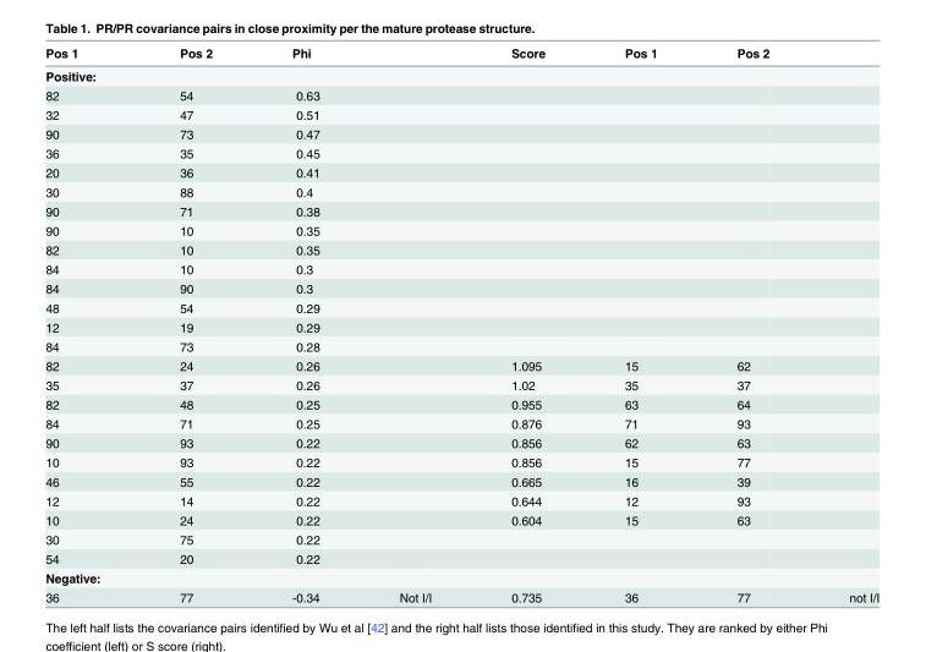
<table><thead><tr><td>Pos 1</td><td>Pos 2</td><td>Phi</td><td></td><td>Score</td><td>Pos 1</td><td>Pos 2</td><td></td></tr></thead><tbody><tr><td colspan="8">Positive:</td></tr><tr><td>82</td><td>54</td><td>0.63</td><td></td><td></td><td></td><td></td><td></td></tr><tr><td>32</td><td>47</td><td>0.51</td><td></td><td></td><td></td><td></td><td></td></tr><tr><td>90</td><td>73</td><td>0.47</td><td></td><td></td><td></td><td></td><td></td></tr><tr><td>36</td><td>35</td><td>0.45</td><td></td><td></td><td></td><td></td><td></td></tr><tr><td>20</td><td>36</td><td>0.41</td><td></td><td></td><td></td><td></td><td></td></tr><tr><td>30</td><td>88</td><td>0.4</td><td></td><td></td><td></td><td></td><td></td></tr><tr><td>90</td><td>71</td><td>0.38</td><td></td><td></td><td></td><td></td><td></td></tr><tr><td>90</td><td>10</td><td>0.35</td><td></td><td></td><td></td><td></td><td></td></tr><tr><td>82</td><td>10</td><td>0.35</td><td></td><td></td><td></td><td></td><td></td></tr><tr><td>84</td><td>10</td><td>0.3</td><td></td><td></td><td></td><td></td><td></td></tr><tr><td>84</td><td>90</td><td>0.3</td><td></td><td></td><td></td><td></td><td></td></tr><tr><td>48</td><td>54</td><td>0.29</td><td></td><td></td><td></td><td></td><td></td></tr><tr><td>12</td><td>19</td><td>0.29</td><td></td><td></td><td></td><td></td><td></td></tr><tr><td>84</td><td>73</td><td>0.28</td><td></td><td></td><td></td><td></td><td></td></tr><tr><td>82</td><td>24</td><td>0.26</td><td></td><td>1.095</td><td>15</td><td>62</td><td></td></tr><tr><td>35</td><td>37</td><td>0.26</td><td></td><td>1.02</td><td>35</td><td>37</td><td></td></tr><tr><td>82</td><td>48</td><td>0.25</td><td></td><td>0.955</td><td>63</td><td>64</td><td></td></tr><tr><td>84</td><td>71</td><td>0.25</td><td></td><td>0.876</td><td>71</td><td>93</td><td></td></tr><tr><td>90</td><td>93</td><td>0.22</td><td></td><td>0.856</td><td>62</td><td>63</td><td></td></tr><tr><td>10</td><td>93</td><td>0.22</td><td></td><td>0.856</td><td>15</td><td>77</td><td></td></tr><tr><td>46</td><td>55</td><td>0.22</td><td></td><td>0.665</td><td>16</td><td>39</td><td></td></tr><tr><td>12</td><td>14</td><td>0.22</td><td></td><td>0.644</td><td>12</td><td>93</td><td></td></tr><tr><td>10</td><td>24</td><td>0.22</td><td></td><td>0.604</td><td>15</td><td>63</td><td></td></tr><tr><td>30</td><td>75</td><td>0.22</td><td></td><td></td><td></td><td></td><td></td></tr><tr><td>54</td><td>20</td><td>0.22</td><td></td><td></td><td></td><td></td><td></td></tr><tr><td colspan="8">Negative:</td></tr><tr><td>36</td><td>77</td><td>-0.34</td><td>Not I/I</td><td>0.735</td><td>36</td><td>77</td><td>not I/I</td></tr></tbody></table>